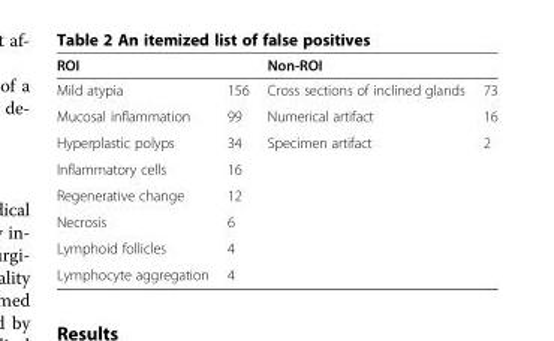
<table><thead><tr><td colspan="2">ROI</td><td colspan="2">Non-ROI</td></tr><tr><td>Mild atypia</td><td>156</td><td>Cross sections of inclined glands</td><td>73</td></tr></thead><tbody><tr><td>Mucosal inflammation</td><td>99</td><td>Numerical artifact</td><td>16</td></tr><tr><td>Hyperplastic polyps</td><td>34</td><td>Specimen artifact</td><td>2</td></tr><tr><td>Inflammatory cells</td><td>16</td><td></td><td></td></tr><tr><td>Regenerative change</td><td>12</td><td></td><td></td></tr><tr><td>Necrosis</td><td>6</td><td></td><td></td></tr><tr><td>Lymphoid follicles</td><td>4</td><td></td><td></td></tr><tr><td>Lymphocyte aggregation</td><td>4</td><td></td><td></td></tr></tbody></table>